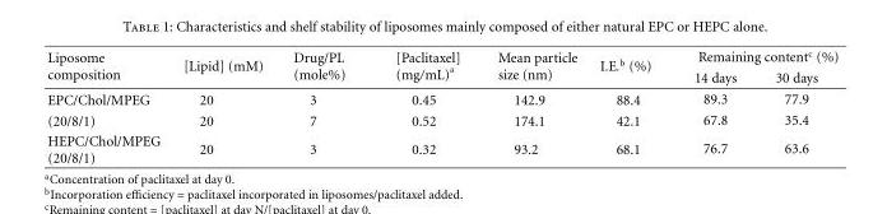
<table><thead><tr><td rowspan="2">Liposome composition</td><td rowspan="2">[Lipid] (mM)</td><td rowspan="2">Drug/PL (mole%)</td><td rowspan="2">[Paclitaxel] (mg/mL)<sup>a</sup></td><td rowspan="2">Mean particle size (nm)</td><td rowspan="2">I.E.<sup>b</sup> (%)</td><td colspan="2">Remaining content<sup>c</sup> (%)</td></tr><tr><td>14 days</td><td>30 days</td></tr></thead><tbody><tr><td>EPC/Chol/MPEG</td><td>20</td><td>3</td><td>0.45</td><td>142.9</td><td>88.4</td><td>89.3</td><td>77.9</td></tr><tr><td>(20/8/1)</td><td>20</td><td>7</td><td>0.52</td><td>174.1</td><td>42.1</td><td>67.8</td><td>35.4</td></tr><tr><td>HEPC/Chol/MPEG (20/8/1)</td><td>20</td><td>3</td><td>0.32</td><td>93.2</td><td>68.1</td><td>76.7</td><td>63.6</td></tr></tbody></table>